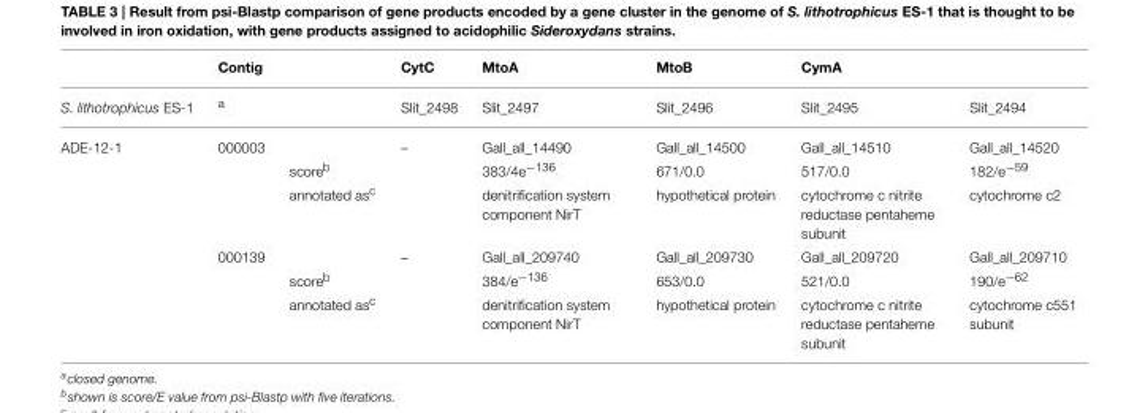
<table><thead><tr><td></td><td>Contig</td><td></td><td>CytC</td><td>MtoA</td><td>MtoB</td><td>CymA</td><td></td></tr></thead><tbody><tr><td>S. lithotrophicus ES-1</td><td><sup>a</sup></td><td></td><td>Slit_2498</td><td>Slit_2497</td><td>Slit_2496</td><td>Slit_2495</td><td>Slit_2494</td></tr><tr><td rowspan="6">ADE-12-1</td><td>000003</td><td></td><td>–</td><td>Gall_all_14490</td><td>Gall_all_14500</td><td>Gall_all_14510</td><td>Gall_all_14520</td></tr><tr><td></td><td>score<sup>b</sup></td><td></td><td>383/4e<sup>−136</sup></td><td>671/0.0</td><td>517/0.0</td><td>182/e<sup>−59</sup></td></tr><tr><td></td><td>annotated as<sup>c</sup></td><td></td><td>denitrification system component NirT</td><td>hypothetical protein</td><td>cytochrome c nitrite reductase pentaheme subunit</td><td>cytochrome c2</td></tr><tr><td>000139</td><td></td><td>–</td><td>Gall_all_209740</td><td>Gall_all_209730</td><td>Gall_all_209720</td><td>Gall_all_209710</td></tr><tr><td></td><td>score<sup>b</sup></td><td></td><td>384/e<sup>−136</sup></td><td>653/0.0</td><td>521/0.0</td><td>190/e<sup>−62</sup></td></tr><tr><td></td><td>annotated as<sup>c</sup></td><td></td><td>denitrification system component NirT</td><td>hypothetical protein</td><td>cytochrome c nitrite reductase pentaheme subunit</td><td>cytochrome c551 subunit</td></tr></tbody></table>